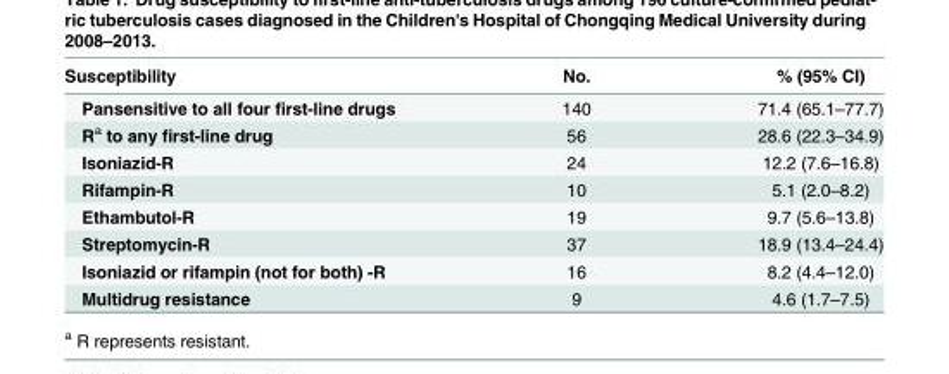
<table><thead><tr><td>Susceptibility</td><td>No.</td><td>% (95% CI)</td></tr></thead><tbody><tr><td>Pansensitive to all four first-line drugs</td><td>140</td><td>71.4 (65.1–77.7)</td></tr><tr><td>R<sup>a</sup> to any first-line drug</td><td>56</td><td>28.6 (22.3–34.9)</td></tr><tr><td>Isoniazid-R</td><td>24</td><td>12.2 (7.6–16.8)</td></tr><tr><td>Rifampin-R</td><td>10</td><td>5.1 (2.0–8.2)</td></tr><tr><td>Ethambutol-R</td><td>19</td><td>9.7 (5.6–13.8)</td></tr><tr><td>Streptomycin-R</td><td>37</td><td>18.9 (13.4–24.4)</td></tr><tr><td>Isoniazid or rifampin (not for both) -R</td><td>16</td><td>8.2 (4.4–12.0)</td></tr><tr><td>Multidrug resistance</td><td>9</td><td>4.6 (1.7–7.5)</td></tr></tbody></table>